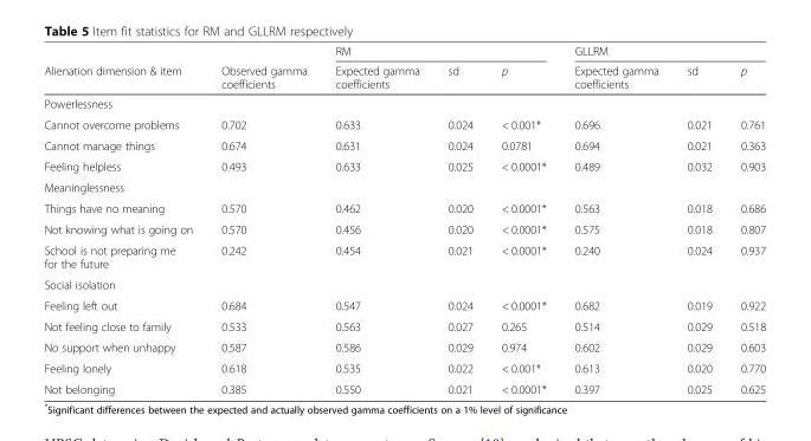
<table><thead><tr><td rowspan="2">Alienation dimension &amp; item</td><td rowspan="2">Observed gamma coefficients</td><td colspan="3">RM</td><td colspan="3">GLLRM</td></tr><tr><td>Expected gamma coefficients</td><td>sd</td><td>p</td><td>Expected gamma coefficients</td><td>sd</td><td>p</td></tr></thead><tbody><tr><td colspan="8">Powerlessness</td></tr><tr><td>Cannot overcome problems</td><td>0.702</td><td>0.633</td><td>0.024</td><td>&lt; 0.001*</td><td>0.696</td><td>0.021</td><td>0.761</td></tr><tr><td>Cannot manage things</td><td>0.674</td><td>0.631</td><td>0.024</td><td>0.0781</td><td>0.694</td><td>0.021</td><td>0.363</td></tr><tr><td>Feeling helpless</td><td>0.493</td><td>0.633</td><td>0.025</td><td>&lt; 0.0001*</td><td>0.489</td><td>0.032</td><td>0.903</td></tr><tr><td colspan="8">Meaninglessness</td></tr><tr><td>Things have no meaning</td><td>0.570</td><td>0.462</td><td>0.020</td><td>&lt; 0.0001*</td><td>0.563</td><td>0.018</td><td>0.686</td></tr><tr><td>Not knowing what is going on</td><td>0.570</td><td>0.456</td><td>0.020</td><td>&lt; 0.0001*</td><td>0.575</td><td>0.018</td><td>0.807</td></tr><tr><td>School is not preparing me for the future</td><td>0.242</td><td>0.454</td><td>0.021</td><td>&lt; 0.0001*</td><td>0.240</td><td>0.024</td><td>0.937</td></tr><tr><td colspan="8">Social isolation</td></tr><tr><td>Feeling left out</td><td>0.684</td><td>0.547</td><td>0.024</td><td>&lt; 0.0001*</td><td>0.682</td><td>0.019</td><td>0.922</td></tr><tr><td>Not feeling close to family</td><td>0.533</td><td>0.563</td><td>0.027</td><td>0.265</td><td>0.514</td><td>0.029</td><td>0.518</td></tr><tr><td>No support when unhappy</td><td>0.587</td><td>0.586</td><td>0.029</td><td>0.974</td><td>0.602</td><td>0.029</td><td>0.603</td></tr><tr><td>Feeling lonely</td><td>0.618</td><td>0.535</td><td>0.022</td><td>&lt; 0.001*</td><td>0.613</td><td>0.020</td><td>0.770</td></tr><tr><td>Not belonging</td><td>0.385</td><td>0.550</td><td>0.021</td><td>&lt; 0.0001*</td><td>0.397</td><td>0.025</td><td>0.625</td></tr></tbody></table>